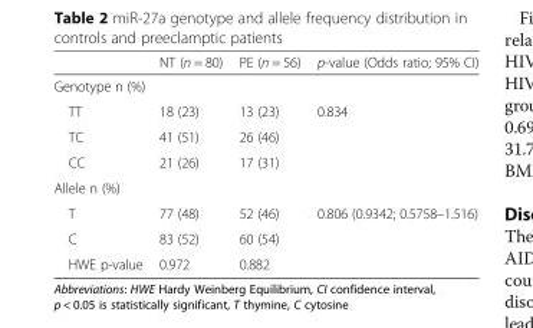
<table><thead><tr><td></td><td>NT (n = 80)</td><td>PE (n = 56)</td><td>p-value (Odds ratio; 95% CI)</td></tr></thead><tbody><tr><td colspan="4">Genotype n (%)</td></tr><tr><td>TT</td><td>18 (23)</td><td>13 (23)</td><td rowspan="3">0.834</td></tr><tr><td>TC</td><td>41 (51)</td><td>26 (46)</td></tr><tr><td>CC</td><td>21 (26)</td><td>17 (31)</td></tr><tr><td colspan="4">Allele n (%)</td></tr><tr><td>T</td><td>77 (48)</td><td>52 (46)</td><td rowspan="3">0.806 (0.9342; 0.5758–1.516)</td></tr><tr><td>C</td><td>83 (52)</td><td>60 (54)</td></tr><tr><td>HWE p-value</td><td>0.972</td><td>0.882</td></tr></tbody></table>